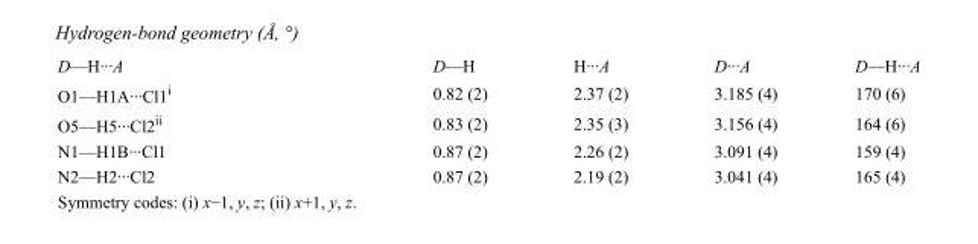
<table><tbody><tr><td>D—H···A</td><td>D—H</td><td>H···A</td><td>D···A</td><td>D—H···A</td></tr><tr><td>O1—H1A···Cl1<sup>i</sup></td><td>0.82 (2)</td><td>2.37 (2)</td><td>3.185 (4)</td><td>170 (6)</td></tr><tr><td>O5—H5···Cl2<sup>ii</sup></td><td>0.83 (2)</td><td>2.35 (3)</td><td>3.156 (4)</td><td>164 (6)</td></tr><tr><td>N1—H1B···Cl1</td><td>0.87 (2)</td><td>2.26 (2)</td><td>3.091 (4)</td><td>159 (4)</td></tr><tr><td>N2—H2···Cl2</td><td>0.87 (2)</td><td>2.19 (2)</td><td>3.041 (4)</td><td>165 (4)</td></tr></tbody></table>